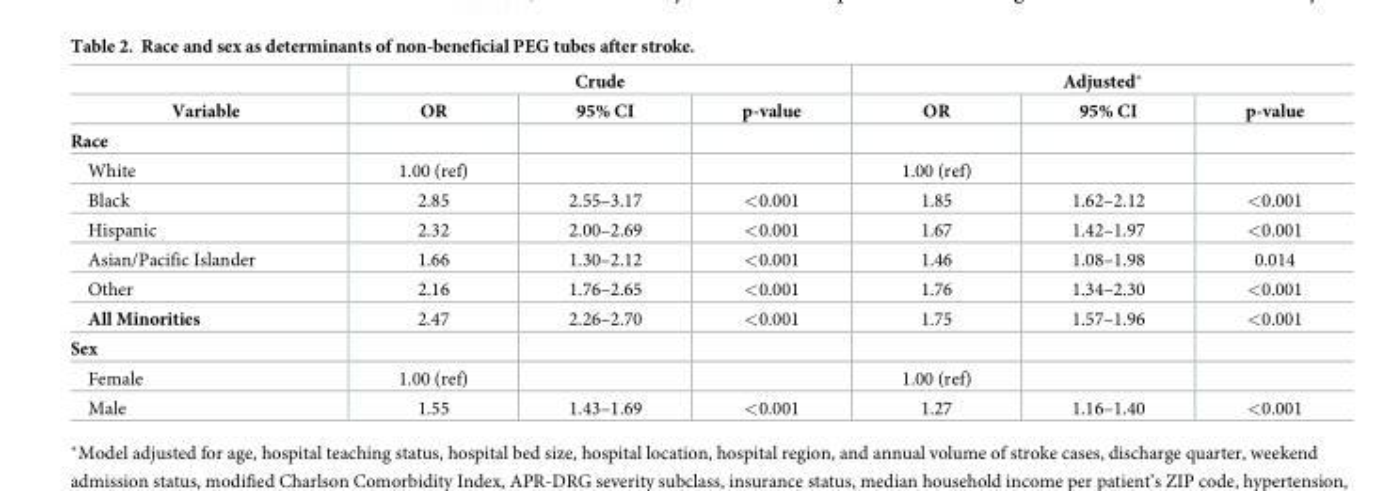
<table><thead><tr><td rowspan="2">Variable</td><td colspan="3">Crude</td><td colspan="3">Adjusted*</td></tr><tr><td>OR</td><td>95% CI</td><td>p-value</td><td>OR</td><td>95% CI</td><td>p-value</td></tr></thead><tbody><tr><td colspan="7">Race</td></tr><tr><td>White</td><td>1.00 (ref)</td><td></td><td></td><td>1.00 (ref)</td><td></td><td></td></tr><tr><td>Black</td><td>2.85</td><td>2.55–3.17</td><td>&lt;0.001</td><td>1.85</td><td>1.62–2.12</td><td>&lt;0.001</td></tr><tr><td>Hispanic</td><td>2.32</td><td>2.00–2.69</td><td>&lt;0.001</td><td>1.67</td><td>1.42–1.97</td><td>&lt;0.001</td></tr><tr><td>Asian/Pacific Islander</td><td>1.66</td><td>1.30–2.12</td><td>&lt;0.001</td><td>1.46</td><td>1.08–1.98</td><td>0.014</td></tr><tr><td>Other</td><td>2.16</td><td>1.76–2.65</td><td>&lt;0.001</td><td>1.76</td><td>1.34–2.30</td><td>&lt;0.001</td></tr><tr><td>All Minorities</td><td>2.47</td><td>2.26–2.70</td><td>&lt;0.001</td><td>1.75</td><td>1.57–1.96</td><td>&lt;0.001</td></tr><tr><td colspan="7">Sex</td></tr><tr><td>Female</td><td>1.00 (ref)</td><td></td><td></td><td>1.00 (ref)</td><td></td><td></td></tr><tr><td>Male</td><td>1.55</td><td>1.43–1.69</td><td>&lt;0.001</td><td>1.27</td><td>1.16–1.40</td><td>&lt;0.001</td></tr></tbody></table>